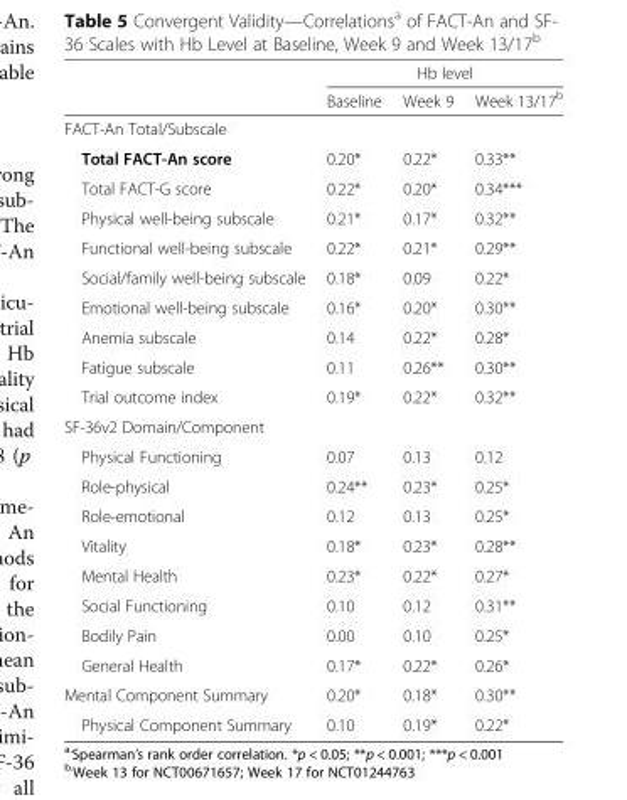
<table><thead><tr><td rowspan="2"></td><td colspan="3">Hb level</td></tr><tr><td>Baseline</td><td>Week 9</td><td>Week 13/17<sup>b</sup></td></tr></thead><tbody><tr><td colspan="4">FACT-An Total/Subscale</td></tr><tr><td>Total FACT-An score</td><td>0.20*</td><td>0.22*</td><td>0.33**</td></tr><tr><td>Total FACT-G score</td><td>0.22*</td><td>0.20*</td><td>0.34***</td></tr><tr><td>Physical well-being subscale</td><td>0.21*</td><td>0.17*</td><td>0.32**</td></tr><tr><td>Functional well-being subscale</td><td>0.22*</td><td>0.21*</td><td>0.29**</td></tr><tr><td>Social/family well-being subscale</td><td>0.18*</td><td>0.09</td><td>0.22*</td></tr><tr><td>Emotional well-being subscale</td><td>0.16*</td><td>0.20*</td><td>0.30**</td></tr><tr><td>Anemia subscale</td><td>0.14</td><td>0.22*</td><td>0.28*</td></tr><tr><td>Fatigue subscale</td><td>0.11</td><td>0.26**</td><td>0.30**</td></tr><tr><td>Trial outcome index</td><td>0.19*</td><td>0.22*</td><td>0.32**</td></tr><tr><td colspan="4">SF-36v2 Domain/Component</td></tr><tr><td>Physical Functioning</td><td>0.07</td><td>0.13</td><td>0.12</td></tr><tr><td>Role-physical</td><td>0.24**</td><td>0.23*</td><td>0.25*</td></tr><tr><td>Role-emotional</td><td>0.12</td><td>0.13</td><td>0.25*</td></tr><tr><td>Vitality</td><td>0.18*</td><td>0.23*</td><td>0.28**</td></tr><tr><td>Mental Health</td><td>0.23*</td><td>0.22*</td><td>0.27*</td></tr><tr><td>Social Functioning</td><td>0.10</td><td>0.12</td><td>0.31**</td></tr><tr><td>Bodily Pain</td><td>0.00</td><td>0.10</td><td>0.25*</td></tr><tr><td>General Health</td><td>0.17*</td><td>0.22*</td><td>0.26*</td></tr><tr><td>Mental Component Summary</td><td>0.20*</td><td>0.18*</td><td>0.30**</td></tr><tr><td>Physical Component Summary</td><td>0.10</td><td>0.19*</td><td>0.22*</td></tr></tbody></table>